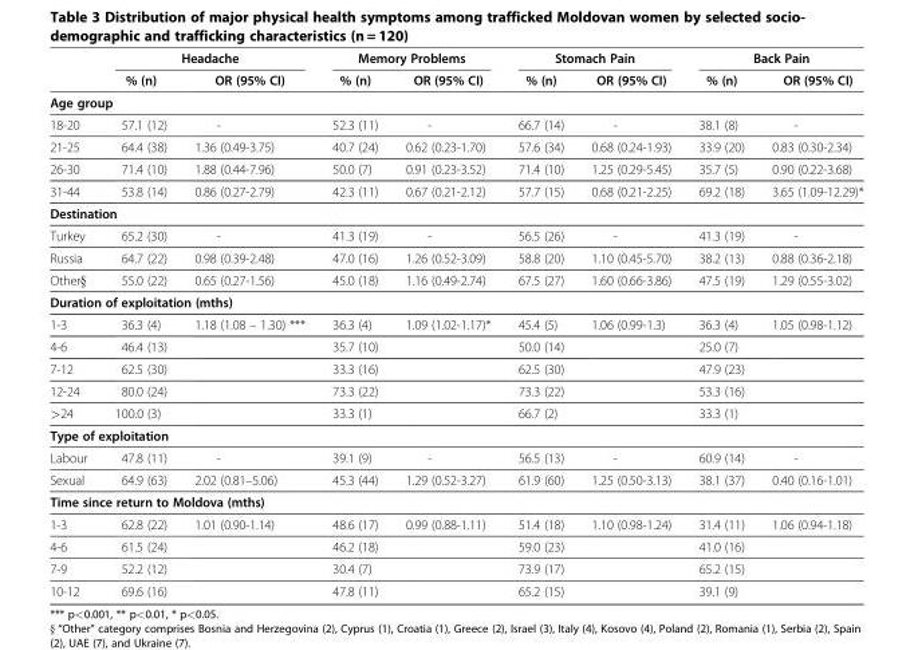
<table><thead><tr><td rowspan="2"></td><td colspan="2">Headache</td><td colspan="2">Memory Problems</td><td colspan="2">Stomach Pain</td><td colspan="2">Back Pain</td></tr><tr><td>% (n)</td><td>OR (95% CI)</td><td>% (n)</td><td>OR (95% CI)</td><td>% (n)</td><td>OR (95% CI)</td><td>% (n)</td><td>OR (95% CI)</td></tr></thead><tbody><tr><td colspan="9">Age group</td></tr><tr><td>18-20</td><td>57.1 (12)</td><td>-</td><td>52.3 (11)</td><td>-</td><td>66.7 (14)</td><td>-</td><td>38.1 (8)</td><td>-</td></tr><tr><td>21-25</td><td>64.4 (38)</td><td>1.36 (0.49-3.75)</td><td>40.7 (24)</td><td>0.62 (0.23-1.70)</td><td>57.6 (34)</td><td>0.68 (0.24-1.93)</td><td>33.9 (20)</td><td>0.83 (0.30-2.34)</td></tr><tr><td>26-30</td><td>71.4 (10)</td><td>1.88 (0.44-7.96)</td><td>50.0 (7)</td><td>0.91 (0.23-3.52)</td><td>71.4 (10)</td><td>1.25 (0.29-5.45)</td><td>35.7 (5)</td><td>0.90 (0.22-3.68)</td></tr><tr><td>31-44</td><td>53.8 (14)</td><td>0.86 (0.27-2.79)</td><td>42.3 (11)</td><td>0.67 (0.21-2.12)</td><td>57.7 (15)</td><td>0.68 (0.21-2.25)</td><td>69.2 (18)</td><td>3.65 (1.09-12.29)*</td></tr><tr><td colspan="9">Destination</td></tr><tr><td>Turkey</td><td>65.2 (30)</td><td>-</td><td>41.3 (19)</td><td>-</td><td>56.5 (26)</td><td>-</td><td>41.3 (19)</td><td>-</td></tr><tr><td>Russia</td><td>64.7 (22)</td><td>0.98 (0.39-2.48)</td><td>47.0 (16)</td><td>1.26 (0.52-3.09)</td><td>58.8 (20)</td><td>1.10 (0.45-5.70)</td><td>38.2 (13)</td><td>0.88 (0.36-2.18)</td></tr><tr><td>Other§</td><td>55.0 (22)</td><td>0.65 (0.27-1.56)</td><td>45.0 (18)</td><td>1.16 (0.49-2.74)</td><td>67.5 (27)</td><td>1.60 (0.66-3.86)</td><td>47.5 (19)</td><td>1.29 (0.55-3.02)</td></tr><tr><td colspan="9">Duration of exploitation (mths)</td></tr><tr><td>1-3</td><td>36.3 (4)</td><td>1.18 (1.08 – 1.30) ***</td><td>36.3 (4)</td><td>1.09 (1.02-1.17)*</td><td>45.4 (5)</td><td>1.06 (0.99-1.3)</td><td>36.3 (4)</td><td>1.05 (0.98-1.12)</td></tr><tr><td>4-6</td><td>46.4 (13)</td><td></td><td>35.7 (10)</td><td></td><td>50.0 (14)</td><td></td><td>25.0 (7)</td><td></td></tr><tr><td>7-12</td><td>62.5 (30)</td><td></td><td>33.3 (16)</td><td></td><td>62.5 (30)</td><td></td><td>47.9 (23)</td><td></td></tr><tr><td>12-24</td><td>80.0 (24)</td><td></td><td>73.3 (22)</td><td></td><td>73.3 (22)</td><td></td><td>53.3 (16)</td><td></td></tr><tr><td>&gt;24</td><td>100.0 (3)</td><td></td><td>33.3 (1)</td><td></td><td>66.7 (2)</td><td></td><td>33.3 (1)</td><td></td></tr><tr><td colspan="9">Type of exploitation</td></tr><tr><td>Labour</td><td>47.8 (11)</td><td>-</td><td>39.1 (9)</td><td>-</td><td>56.5 (13)</td><td>-</td><td>60.9 (14)</td><td>-</td></tr><tr><td>Sexual</td><td>64.9 (63)</td><td>2.02 (0.81–5.06)</td><td>45.3 (44)</td><td>1.29 (0.52-3.27)</td><td>61.9 (60)</td><td>1.25 (0.50-3.13)</td><td>38.1 (37)</td><td>0.40 (0.16-1.01)</td></tr><tr><td colspan="9">Time since return to Moldova (mths)</td></tr><tr><td>1-3</td><td>62.8 (22)</td><td>1.01 (0.90-1.14)</td><td>48.6 (17)</td><td>0.99 (0.88-1.11)</td><td>51.4 (18)</td><td>1.10 (0.98-1.24)</td><td>31.4 (11)</td><td>1.06 (0.94-1.18)</td></tr><tr><td>4-6</td><td>61.5 (24)</td><td></td><td>46.2 (18)</td><td></td><td>59.0 (23)</td><td></td><td>41.0 (16)</td><td></td></tr><tr><td>7-9</td><td>52.2 (12)</td><td></td><td>30.4 (7)</td><td></td><td>73.9 (17)</td><td></td><td>65.2 (15)</td><td></td></tr><tr><td>10-12</td><td>69.6 (16)</td><td></td><td>47.8 (11)</td><td></td><td>65.2 (15)</td><td></td><td>39.1 (9)</td><td></td></tr></tbody></table>